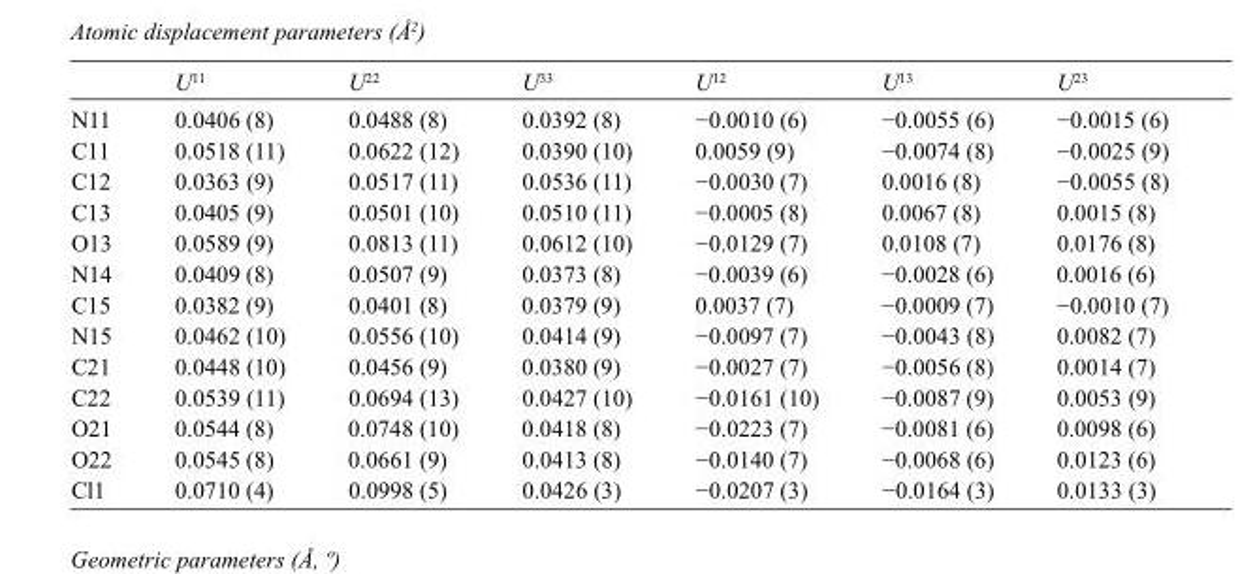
<table><thead><tr><td></td><td>U<sup>11</sup></td><td>U<sup>22</sup></td><td>U<sup>33</sup></td><td>U<sup>12</sup></td><td>U<sup>13</sup></td><td>U<sup>23</sup></td></tr></thead><tbody><tr><td>N11</td><td>0.0406 (8)</td><td>0.0488 (8)</td><td>0.0392 (8)</td><td>−0.0010 (6)</td><td>−0.0055 (6)</td><td>−0.0015 (6)</td></tr><tr><td>C11</td><td>0.0518 (11)</td><td>0.0622 (12)</td><td>0.0390 (10)</td><td>0.0059 (9)</td><td>−0.0074 (8)</td><td>−0.0025 (9)</td></tr><tr><td>C12</td><td>0.0363 (9)</td><td>0.0517 (11)</td><td>0.0536 (11)</td><td>−0.0030 (7)</td><td>0.0016 (8)</td><td>−0.0055 (8)</td></tr><tr><td>C13</td><td>0.0405 (9)</td><td>0.0501 (10)</td><td>0.0510 (11)</td><td>−0.0005 (8)</td><td>0.0067 (8)</td><td>0.0015 (8)</td></tr><tr><td>O13</td><td>0.0589 (9)</td><td>0.0813 (11)</td><td>0.0612 (10)</td><td>−0.0129 (7)</td><td>0.0108 (7)</td><td>0.0176 (8)</td></tr><tr><td>N14</td><td>0.0409 (8)</td><td>0.0507 (9)</td><td>0.0373 (8)</td><td>−0.0039 (6)</td><td>−0.0028 (6)</td><td>0.0016 (6)</td></tr><tr><td>C15</td><td>0.0382 (9)</td><td>0.0401 (8)</td><td>0.0379 (9)</td><td>0.0037 (7)</td><td>−0.0009 (7)</td><td>−0.0010 (7)</td></tr><tr><td>N15</td><td>0.0462 (10)</td><td>0.0556 (10)</td><td>0.0414 (9)</td><td>−0.0097 (7)</td><td>−0.0043 (8)</td><td>0.0082 (7)</td></tr><tr><td>C21</td><td>0.0448 (10)</td><td>0.0456 (9)</td><td>0.0380 (9)</td><td>−0.0027 (7)</td><td>−0.0056 (8)</td><td>0.0014 (7)</td></tr><tr><td>C22</td><td>0.0539 (11)</td><td>0.0694 (13)</td><td>0.0427 (10)</td><td>−0.0161 (10)</td><td>−0.0087 (9)</td><td>0.0053 (9)</td></tr><tr><td>O21</td><td>0.0544 (8)</td><td>0.0748 (10)</td><td>0.0418 (8)</td><td>−0.0223 (7)</td><td>−0.0081 (6)</td><td>0.0098 (6)</td></tr><tr><td>O22</td><td>0.0545 (8)</td><td>0.0661 (9)</td><td>0.0413 (8)</td><td>−0.0140 (7)</td><td>−0.0068 (6)</td><td>0.0123 (6)</td></tr><tr><td>Cl1</td><td>0.0710 (4)</td><td>0.0998 (5)</td><td>0.0426 (3)</td><td>−0.0207 (3)</td><td>−0.0164 (3)</td><td>0.0133 (3)</td></tr></tbody></table>